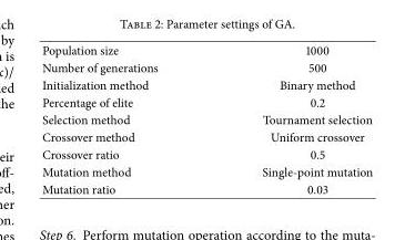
<table><tbody><tr><td>Population size</td><td>1000</td></tr><tr><td>Number of generations</td><td>500</td></tr><tr><td>Initialization method</td><td>Binary method</td></tr><tr><td>Percentage of elite</td><td>0.2</td></tr><tr><td>Selection method</td><td>Tournament selection</td></tr><tr><td>Crossover method</td><td>Uniform crossover</td></tr><tr><td>Crossover ratio</td><td>0.5</td></tr><tr><td>Mutation method</td><td>Single-point mutation</td></tr><tr><td>Mutation ratio</td><td>0.03</td></tr></tbody></table>